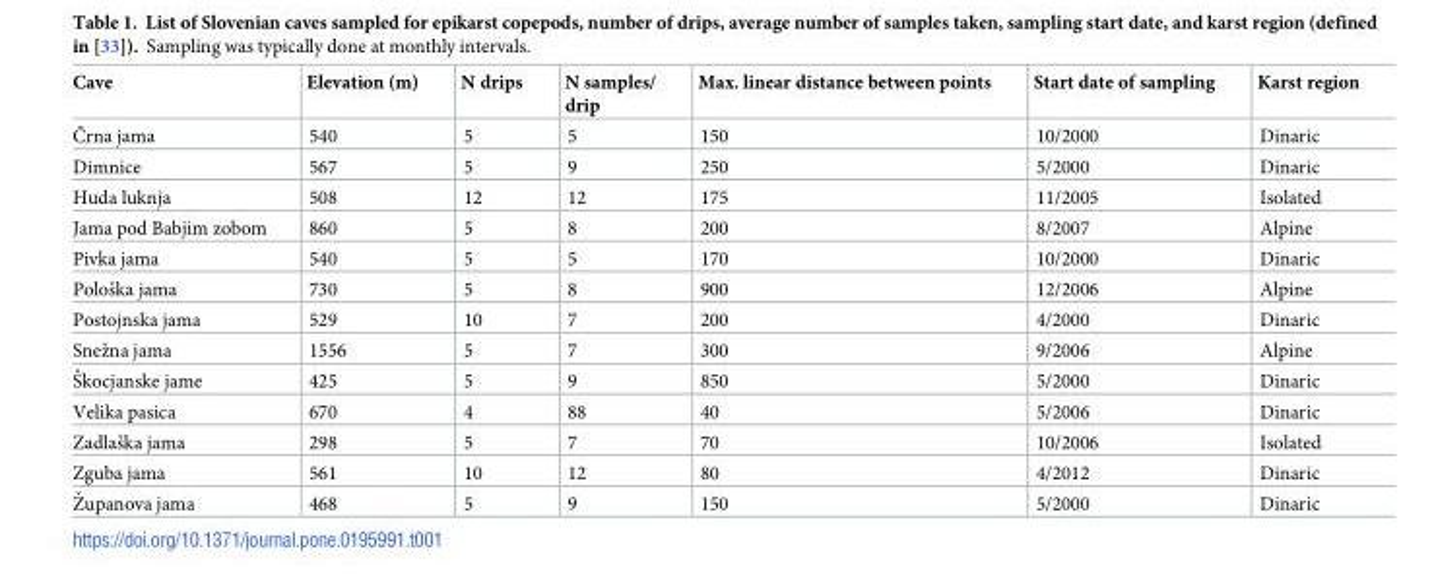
<table><thead><tr><td>Cave</td><td>Elevation (m)</td><td>N drips</td><td>N samples/ drip</td><td>Max. linear distance between points</td><td>Start date of sampling</td><td>Karst region</td></tr></thead><tbody><tr><td>Črna jama</td><td>540</td><td>5</td><td>5</td><td>150</td><td>10/2000</td><td>Dinaric</td></tr><tr><td>Dimnice</td><td>567</td><td>5</td><td>9</td><td>250</td><td>5/2000</td><td>Dinaric</td></tr><tr><td>Huda luknja</td><td>508</td><td>12</td><td>12</td><td>175</td><td>11/2005</td><td>Isolated</td></tr><tr><td>Jama pod Babjim zobom</td><td>860</td><td>5</td><td>8</td><td>200</td><td>8/2007</td><td>Alpine</td></tr><tr><td>Pivka jama</td><td>540</td><td>5</td><td>5</td><td>170</td><td>10/2000</td><td>Dinaric</td></tr><tr><td>Polosˇka jama</td><td>730</td><td>5</td><td>8</td><td>900</td><td>12/2006</td><td>Alpine</td></tr><tr><td>Postojnska jama</td><td>529</td><td>10</td><td>7</td><td>200</td><td>4/2000</td><td>Dinaric</td></tr><tr><td>Snezˇna jama</td><td>1556</td><td>5</td><td>7</td><td>300</td><td>9/2006</td><td>Alpine</td></tr><tr><td>Sˇkocjanske jame</td><td>425</td><td>5</td><td>9</td><td>850</td><td>5/2000</td><td>Dinaric</td></tr><tr><td>Velika pasica</td><td>670</td><td>4</td><td>88</td><td>40</td><td>5/2006</td><td>Dinaric</td></tr><tr><td>Zadlasˇka jama</td><td>298</td><td>5</td><td>7</td><td>70</td><td>10/2006</td><td>Isolated</td></tr><tr><td>Zguba jama</td><td>561</td><td>10</td><td>12</td><td>80</td><td>4/2012</td><td>Dinaric</td></tr><tr><td>Zˇupanova jama</td><td>468</td><td>5</td><td>9</td><td>150</td><td>5/2000</td><td>Dinaric</td></tr></tbody></table>